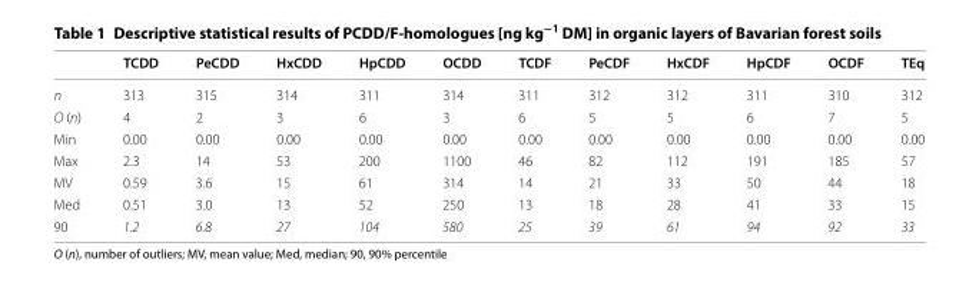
<table><thead><tr><td></td><td>TCDD</td><td>PeCDD</td><td>HxCDD</td><td>HpCDD</td><td>OCDD</td><td>TCDF</td><td>PeCDF</td><td>HxCDF</td><td>HpCDF</td><td>OCDF</td><td>TEq</td></tr></thead><tbody><tr><td>n</td><td>313</td><td>315</td><td>314</td><td>311</td><td>314</td><td>311</td><td>312</td><td>312</td><td>311</td><td>310</td><td>312</td></tr><tr><td>O (n)</td><td>4</td><td>2</td><td>3</td><td>6</td><td>3</td><td>6</td><td>5</td><td>5</td><td>6</td><td>7</td><td>5</td></tr><tr><td>Min</td><td>0.00</td><td>0.00</td><td>0.00</td><td>0.00</td><td>0.00</td><td>0.00</td><td>0.00</td><td>0.00</td><td>0.00</td><td>0.00</td><td>0.00</td></tr><tr><td>Max</td><td>2.3</td><td>14</td><td>53</td><td>200</td><td>1100</td><td>46</td><td>82</td><td>112</td><td>191</td><td>185</td><td>57</td></tr><tr><td>MV</td><td>0.59</td><td>3.6</td><td>15</td><td>61</td><td>314</td><td>14</td><td>21</td><td>33</td><td>50</td><td>44</td><td>18</td></tr><tr><td>Med</td><td>0.51</td><td>3.0</td><td>13</td><td>52</td><td>250</td><td>13</td><td>18</td><td>28</td><td>41</td><td>33</td><td>15</td></tr><tr><td>90</td><td>1.2</td><td>6.8</td><td>27</td><td>104</td><td>580</td><td>25</td><td>39</td><td>61</td><td>94</td><td>92</td><td>33</td></tr></tbody></table>